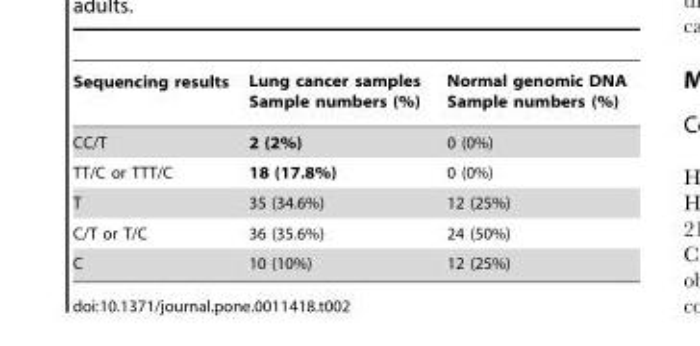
<table><thead><tr><td>Sequencing results</td><td>Lung cancer samples Sample numbers (%)</td><td>Normal genomic DNA Sample numbers (%)</td></tr></thead><tbody><tr><td>CC/T</td><td>2 (2%)</td><td>0 (0%)</td></tr><tr><td>TT/C or TTT/C</td><td>18 (17.8%)</td><td>0 (0%)</td></tr><tr><td>T</td><td>35 (34.6%)</td><td>12 (25%)</td></tr><tr><td>C/T or T/C</td><td>36 (35.6%)</td><td>24 (50%)</td></tr><tr><td>C</td><td>10 (10%)</td><td>12 (25%)</td></tr></tbody></table>